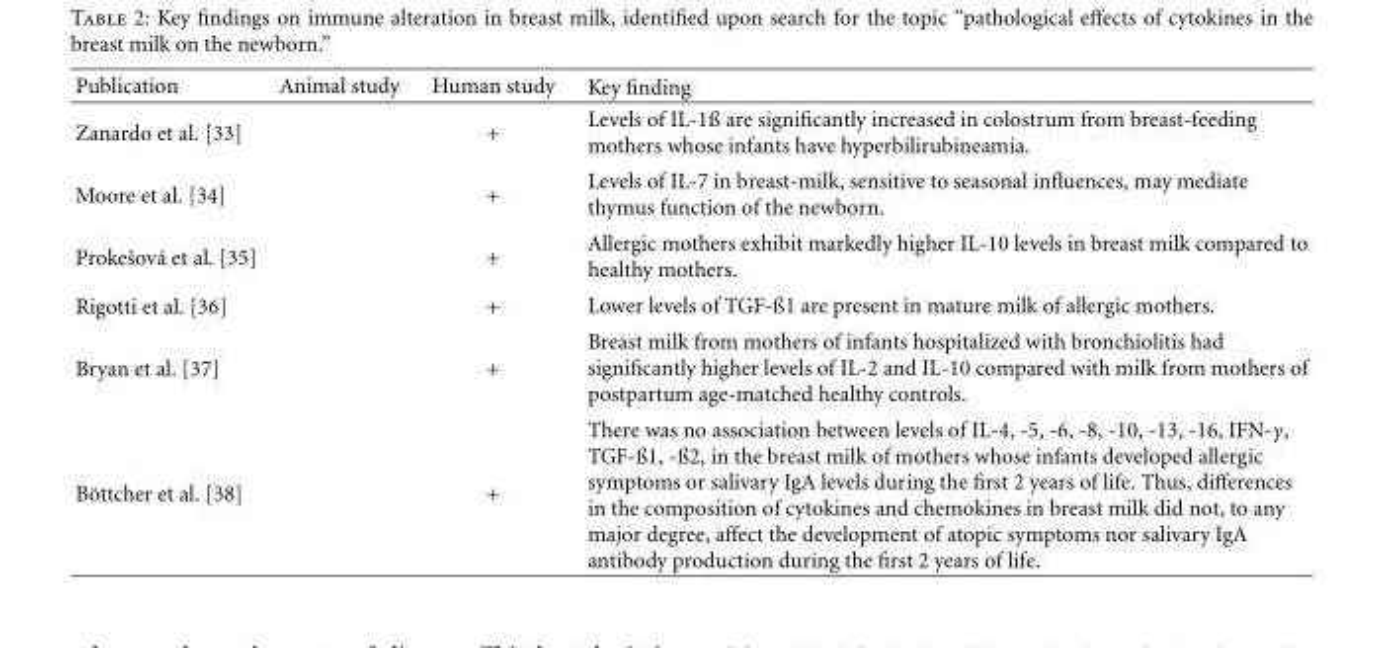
<table><thead><tr><td>Publication</td><td>Animal study</td><td>Human study</td><td>Key finding</td></tr></thead><tbody><tr><td>Zanardo et al. [33]</td><td></td><td>+</td><td>Levels of IL-1ß are significantly increased in colostrum from breast-feeding mothers whose infants have hyperbilirubineamia.</td></tr><tr><td>Moore et al. [34]</td><td></td><td>+</td><td>Levels of IL-7 in breast-milk, sensitive to seasonal influences, may mediate thymus function of the newborn.</td></tr><tr><td>Prokeˇsov´a et al. [35]</td><td></td><td>+</td><td>Allergic mothers exhibit markedly higher IL-10 levels in breast milk compared to healthy mothers.</td></tr><tr><td>Rigotti et al. [36]</td><td></td><td>+</td><td>Lower levels of TGF-ß1 are present in mature milk of allergic mothers.</td></tr><tr><td>Bryan et al. [37]</td><td></td><td>+</td><td>Breast milk from mothers of infants hospitalized with bronchiolitis had significantly higher levels of IL-2 and IL-10 compared with milk from mothers of postpartum age-matched healthy controls.</td></tr><tr><td>B¨ottcher et al. [38]</td><td></td><td>+</td><td>There was no association between levels of IL-4, -5, -6, -8, -10, -13, -16, IFN-γ, TGF-ß1, -ß2, in the breast milk of mothers whose infants developed allergic symptoms or salivary IgA levels during the first 2 years of life. Thus, differences in the composition of cytokines and chemokines in breast milk did not, to any major degree, affect the development of atopic symptoms nor salivary IgA antibody production during the first 2 years of life.</td></tr></tbody></table>